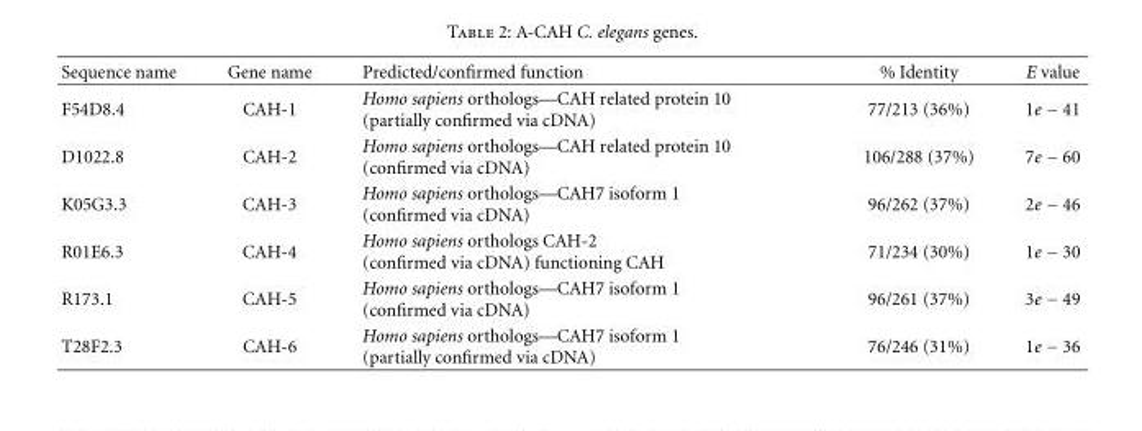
<table><thead><tr><td>Sequence name</td><td>Gene name</td><td>Predicted/confirmed function</td><td>% Identity</td><td>E value</td></tr></thead><tbody><tr><td>F54D8.4</td><td>CAH-1</td><td>Homo sapiens orthologs—CAH related protein 10 (partially confirmed via cDNA)</td><td>77/213 (36%)</td><td>1e − 41</td></tr><tr><td>D1022.8</td><td>CAH-2</td><td>Homo sapiens orthologs—CAH related protein 10 (confirmed via cDNA)</td><td>106/288 (37%)</td><td>7e − 60</td></tr><tr><td>K05G3.3</td><td>CAH-3</td><td>Homo sapiens orthologs—CAH7 isoform 1 (confirmed via cDNA)</td><td>96/262 (37%)</td><td>2e − 46</td></tr><tr><td>R01E6.3</td><td>CAH-4</td><td>Homo sapiens orthologs CAH-2 (confirmed via cDNA) functioning CAH</td><td>71/234 (30%)</td><td>1e − 30</td></tr><tr><td>R173.1</td><td>CAH-5</td><td>Homo sapiens orthologs—CAH7 isoform 1 (confirmed via cDNA)</td><td>96/261 (37%)</td><td>3e − 49</td></tr><tr><td>T28F2.3</td><td>CAH-6</td><td>Homo sapiens orthologs—CAH7 isoform 1 (partially confirmed via cDNA)</td><td>76/246 (31%)</td><td>1e − 36</td></tr></tbody></table>